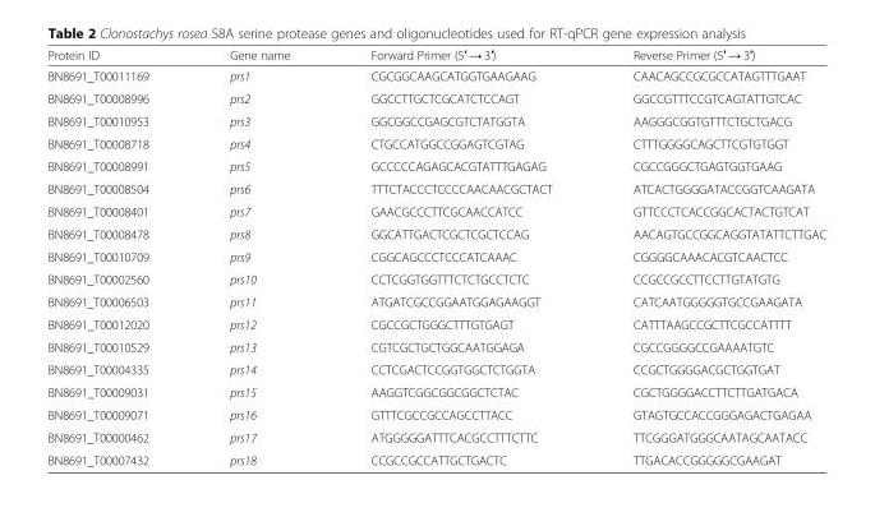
<table><thead><tr><td>Protein ID</td><td>Gene name</td><td>Forward Primer (5′ → 3′)</td><td>Reverse Primer (5′ → 3′)</td></tr></thead><tbody><tr><td>BN8691_T00011169</td><td>prs1</td><td>CGCGGCAAGCATGGTGAAGAAG</td><td>CAACAGCCGCGCCATAGTTTGAAT</td></tr><tr><td>BN8691_T00008996</td><td>prs2</td><td>GGCCTTGCTCGCATCTCCAGT</td><td>GGCCGTTTCCGTCAGTATTGTCAC</td></tr><tr><td>BN8691_T00010953</td><td>prs3</td><td>GGCGGCCGAGCGTCTATGGTA</td><td>AAGGGCGGTGTTTCTGCTGACG</td></tr><tr><td>BN8691_T00008718</td><td>prs4</td><td>CTGCCATGGCCGGAGTCGTAG</td><td>CTTTGGGGCAGCTTCGTGTGGT</td></tr><tr><td>BN8691_T00008991</td><td>prs5</td><td>GCCCCCAGAGCACGTATTTGAGAG</td><td>CGCCGGGCTGAGTGGTGAAG</td></tr><tr><td>BN8691_T00008504</td><td>prs6</td><td>TTTCTACCCTCCCCAACAACGCTACT</td><td>ATCACTGGGGATACCGGTCAAGATA</td></tr><tr><td>BN8691_T00008401</td><td>prs7</td><td>GAACGCCCTTCGCAACCATCC</td><td>GTTCCCTCACCGGCACTACTGTCAT</td></tr><tr><td>BN8691_T00008478</td><td>prs8</td><td>GGCATTGACTCGCTCGCTCCAG</td><td>AACAGTGCCGGCAGGTATATTCTTGAC</td></tr><tr><td>BN8691_T00010709</td><td>prs9</td><td>CGGCAGCCCTCCCATCAAAC</td><td>CGGGGCAAACACGTCAACTCC</td></tr><tr><td>BN8691_T00002560</td><td>prs10</td><td>CCTCGGTGGTTTCTCTGCCTCTC</td><td>CCGCCGCCTTCCTTGTATGTG</td></tr><tr><td>BN8691_T00006503</td><td>prs11</td><td>ATGATCGCCGGAATGGAGAAGGT</td><td>CATCAATGGGGGTGCCGAAGATA</td></tr><tr><td>BN8691_T00012020</td><td>prs12</td><td>CGCCGCTGGGCTTTGTGAGT</td><td>CATTTAAGCCGCTTCGCCATTTT</td></tr><tr><td>BN8691_T00010529</td><td>prs13</td><td>CGTCGCTGCTGGCAATGGAGA</td><td>CGCCGGGGCCGAAAATGTC</td></tr><tr><td>BN8691_T00004335</td><td>prs14</td><td>CCTCGACTCCGGTGGCTCTGGTA</td><td>CCGCTGGGGACGCTGGTGAT</td></tr><tr><td>BN8691_T00009031</td><td>prs15</td><td>AAGGTCGGCGGCGGCTCTAC</td><td>CGCTGGGGACCTTCTTGATGACA</td></tr><tr><td>BN8691_T00009071</td><td>prs16</td><td>GTTTCGCCGCCAGCCTTACC</td><td>GTAGTGCCACCGGGAGACTGAGAA</td></tr><tr><td>BN8691_T00000462</td><td>prs17</td><td>ATGGGGGATTTCACGCCTTTCTTC</td><td>TTCGGGATGGGCAATAGCAATACC</td></tr><tr><td>BN8691_T00007432</td><td>prs18</td><td>CCGCCGCCATTGCTGACTC</td><td>TTGACACCGGGGGCGAAGAT</td></tr></tbody></table>